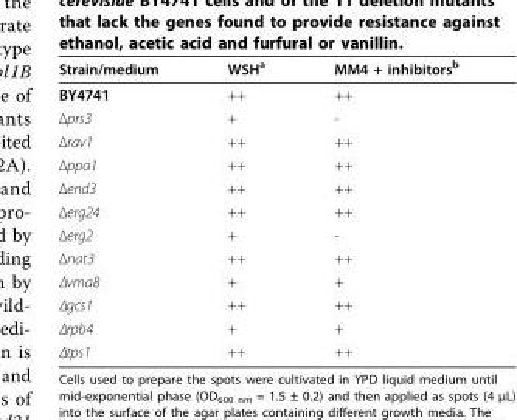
<table><thead><tr><td>Strain/medium</td><td>WSH<sup>a</sup></td><td>MM4 + inhibitors<sup>b</sup></td></tr></thead><tbody><tr><td>BY4741</td><td>++</td><td>++</td></tr><tr><td>Δprs3</td><td>+</td><td>-</td></tr><tr><td>Δrav1</td><td>++</td><td>++</td></tr><tr><td>Δppa1</td><td>++</td><td>++</td></tr><tr><td>Δend3</td><td>++</td><td>++</td></tr><tr><td>Δerg24</td><td>++</td><td>++</td></tr><tr><td>Δerg2</td><td>+</td><td>-</td></tr><tr><td>Δnat3</td><td>++</td><td>++</td></tr><tr><td>Δvma8</td><td>+</td><td>+</td></tr><tr><td>Δgcs1</td><td>++</td><td>++</td></tr><tr><td>Δrpb4</td><td>+</td><td>+</td></tr><tr><td>Δtps1</td><td>++</td><td>++</td></tr></tbody></table>